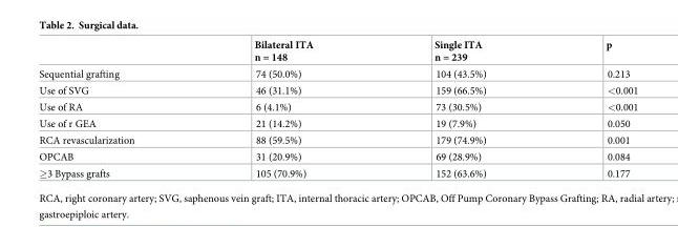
<table><thead><tr><td></td><td>Bilateral ITA n = 148</td><td>Single ITA n = 239</td><td>p</td></tr></thead><tbody><tr><td>Sequential grafting</td><td>74 (50.0%)</td><td>104 (43.5%)</td><td>0.213</td></tr><tr><td>Use of SVG</td><td>46 (31.1%)</td><td>159 (66.5%)</td><td>&lt;0.001</td></tr><tr><td>Use of RA</td><td>6 (4.1%)</td><td>73 (30.5%)</td><td>&lt;0.001</td></tr><tr><td>Use of r GEA</td><td>21 (14.2%)</td><td>19 (7.9%)</td><td>0.050</td></tr><tr><td>RCA revascularization</td><td>88 (59.5%)</td><td>179 (74.9%)</td><td>0.001</td></tr><tr><td>OPCAB</td><td>31 (20.9%)</td><td>69 (28.9%)</td><td>0.084</td></tr><tr><td>≥3 Bypass grafts</td><td>105 (70.9%)</td><td>152 (63.6%)</td><td>0.177</td></tr></tbody></table>